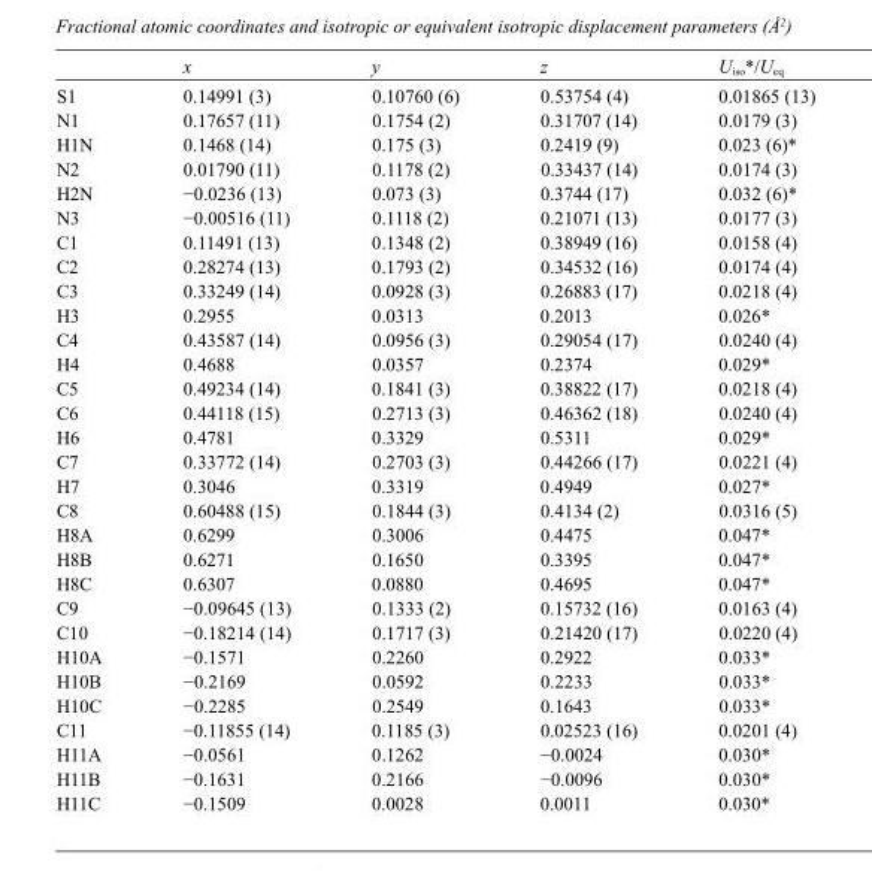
<table><thead><tr><td></td><td>x</td><td>y</td><td>z</td><td>U<sub>iso</sub>*/U<sub>eq</sub></td></tr></thead><tbody><tr><td>S1</td><td>0.14991 (3)</td><td>0.10760 (6)</td><td>0.53754 (4)</td><td>0.01865 (13)</td></tr><tr><td>N1</td><td>0.17657 (11)</td><td>0.1754 (2)</td><td>0.31707 (14)</td><td>0.0179 (3)</td></tr><tr><td>H1N</td><td>0.1468 (14)</td><td>0.175 (3)</td><td>0.2419 (9)</td><td>0.023 (6)*</td></tr><tr><td>N2</td><td>0.01790 (11)</td><td>0.1178 (2)</td><td>0.33437 (14)</td><td>0.0174 (3)</td></tr><tr><td>H2N</td><td>−0.0236 (13)</td><td>0.073 (3)</td><td>0.3744 (17)</td><td>0.032 (6)*</td></tr><tr><td>N3</td><td>−0.00516 (11)</td><td>0.1118 (2)</td><td>0.21071 (13)</td><td>0.0177 (3)</td></tr><tr><td>C1</td><td>0.11491 (13)</td><td>0.1348 (2)</td><td>0.38949 (16)</td><td>0.0158 (4)</td></tr><tr><td>C2</td><td>0.28274 (13)</td><td>0.1793 (2)</td><td>0.34532 (16)</td><td>0.0174 (4)</td></tr><tr><td>C3</td><td>0.33249 (14)</td><td>0.0928 (3)</td><td>0.26883 (17)</td><td>0.0218 (4)</td></tr><tr><td>H3</td><td>0.2955</td><td>0.0313</td><td>0.2013</td><td>0.026*</td></tr><tr><td>C4</td><td>0.43587 (14)</td><td>0.0956 (3)</td><td>0.29054 (17)</td><td>0.0240 (4)</td></tr><tr><td>H4</td><td>0.4688</td><td>0.0357</td><td>0.2374</td><td>0.029*</td></tr><tr><td>C5</td><td>0.49234 (14)</td><td>0.1841 (3)</td><td>0.38822 (17)</td><td>0.0218 (4)</td></tr><tr><td>C6</td><td>0.44118 (15)</td><td>0.2713 (3)</td><td>0.46362 (18)</td><td>0.0240 (4)</td></tr><tr><td>H6</td><td>0.4781</td><td>0.3329</td><td>0.5311</td><td>0.029*</td></tr><tr><td>C7</td><td>0.33772 (14)</td><td>0.2703 (3)</td><td>0.44266 (17)</td><td>0.0221 (4)</td></tr><tr><td>H7</td><td>0.3046</td><td>0.3319</td><td>0.4949</td><td>0.027*</td></tr><tr><td>C8</td><td>0.60488 (15)</td><td>0.1844 (3)</td><td>0.4134 (2)</td><td>0.0316 (5)</td></tr><tr><td>H8A</td><td>0.6299</td><td>0.3006</td><td>0.4475</td><td>0.047*</td></tr><tr><td>H8B</td><td>0.6271</td><td>0.1650</td><td>0.3395</td><td>0.047*</td></tr><tr><td>H8C</td><td>0.6307</td><td>0.0880</td><td>0.4695</td><td>0.047*</td></tr><tr><td>C9</td><td>−0.09645 (13)</td><td>0.1333 (2)</td><td>0.15732 (16)</td><td>0.0163 (4)</td></tr><tr><td>C10</td><td>−0.18214 (14)</td><td>0.1717 (3)</td><td>0.21420 (17)</td><td>0.0220 (4)</td></tr><tr><td>H10A</td><td>−0.1571</td><td>0.2260</td><td>0.2922</td><td>0.033*</td></tr><tr><td>H10B</td><td>−0.2169</td><td>0.0592</td><td>0.2233</td><td>0.033*</td></tr><tr><td>H10C</td><td>−0.2285</td><td>0.2549</td><td>0.1643</td><td>0.033*</td></tr><tr><td>C11</td><td>−0.11855 (14)</td><td>0.1185 (3)</td><td>0.02523 (16)</td><td>0.0201 (4)</td></tr><tr><td>H11A</td><td>−0.0561</td><td>0.1262</td><td>−0.0024</td><td>0.030*</td></tr><tr><td>H11B</td><td>−0.1631</td><td>0.2166</td><td>−0.0096</td><td>0.030*</td></tr><tr><td>H11C</td><td>−0.1509</td><td>0.0028</td><td>0.0011</td><td>0.030*</td></tr></tbody></table>